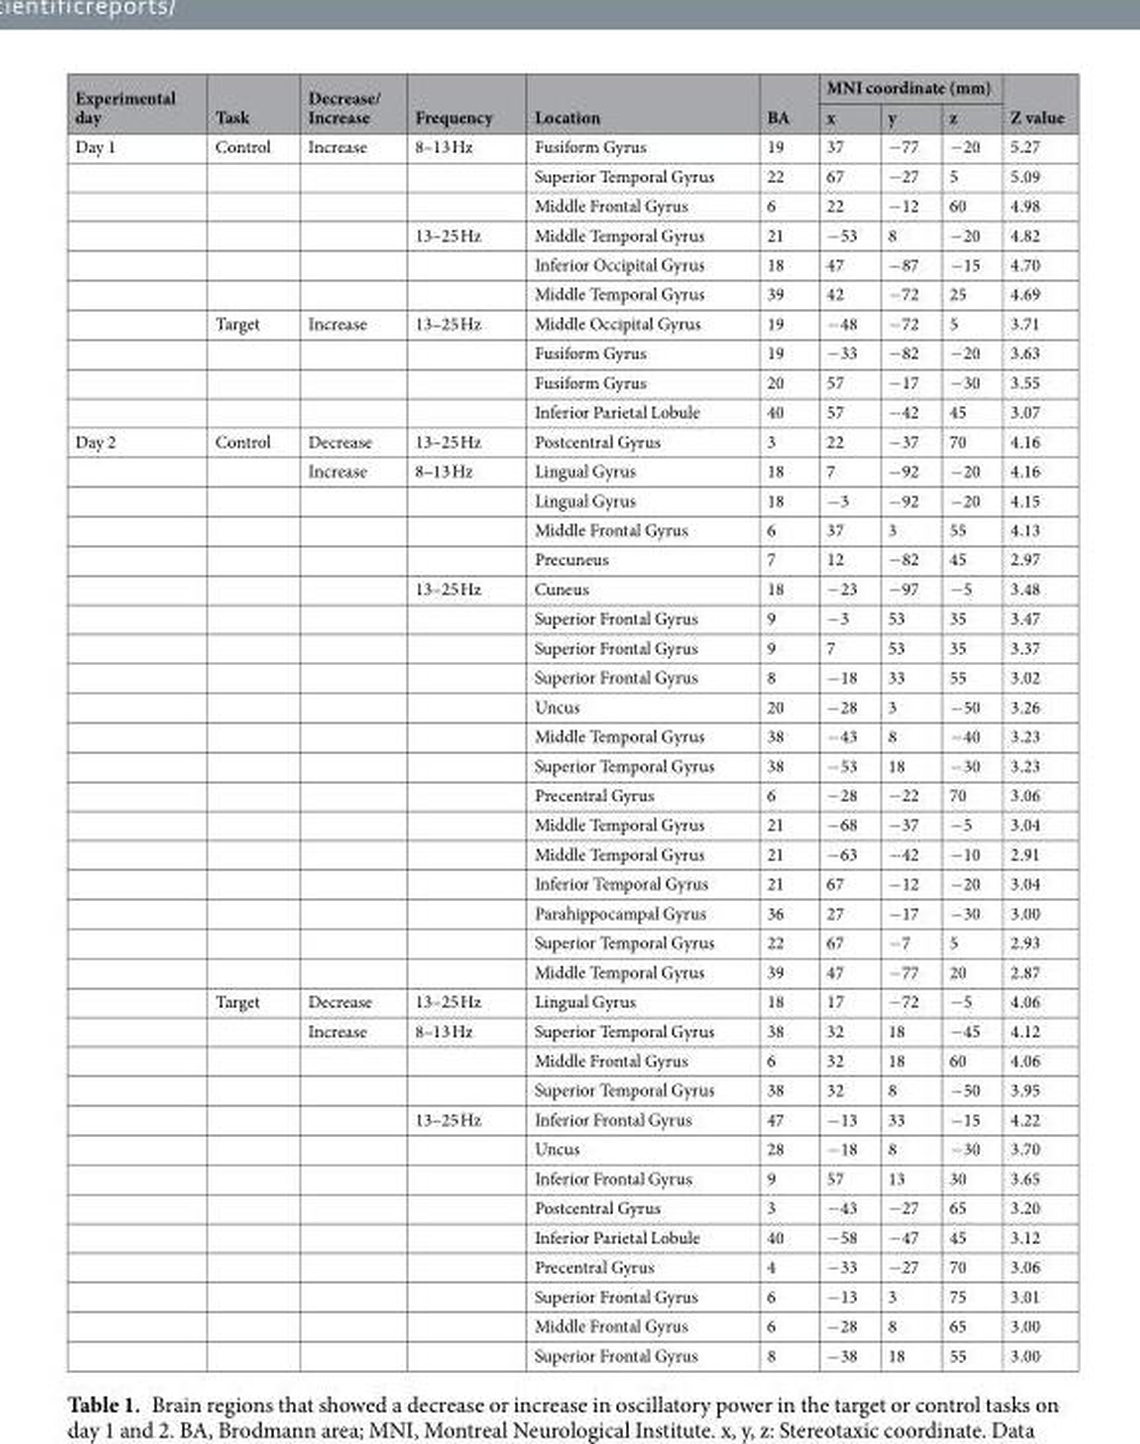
<table><thead><tr><td rowspan="2">Experimental day</td><td rowspan="2">Task</td><td rowspan="2">Decrease/ Increase</td><td rowspan="2">Frequency</td><td rowspan="2">Location</td><td rowspan="2">BA</td><td colspan="3">MNI coordinate (mm)</td><td rowspan="2">Z value</td></tr><tr><td>x</td><td>y</td><td>z</td></tr></thead><tbody><tr><td rowspan="10">Day 1</td><td>Control</td><td>Increase</td><td>8–13 Hz</td><td>Fusiform Gyrus</td><td>19</td><td>37</td><td>−77</td><td>−20</td><td>5.27</td></tr><tr><td></td><td></td><td></td><td>Superior Temporal Gyrus</td><td>22</td><td>67</td><td>−27</td><td>5</td><td>5.09</td></tr><tr><td></td><td></td><td></td><td>Middle Frontal Gyrus</td><td>6</td><td>22</td><td>−12</td><td>60</td><td>4.98</td></tr><tr><td></td><td></td><td>13–25 Hz</td><td>Middle Temporal Gyrus</td><td>21</td><td>−53</td><td>8</td><td>−20</td><td>4.82</td></tr><tr><td></td><td></td><td></td><td>Inferior Occipital Gyrus</td><td>18</td><td>47</td><td>−87</td><td>−15</td><td>4.70</td></tr><tr><td></td><td></td><td></td><td>Middle Temporal Gyrus</td><td>39</td><td>42</td><td>−72</td><td>25</td><td>4.69</td></tr><tr><td>Target</td><td>Increase</td><td>13–25 Hz</td><td>Middle Occipital Gyrus</td><td>19</td><td>−48</td><td>−72</td><td>5</td><td>3.71</td></tr><tr><td></td><td></td><td></td><td>Fusiform Gyrus</td><td>19</td><td>−33</td><td>−82</td><td>−20</td><td>3.63</td></tr><tr><td></td><td></td><td></td><td>Fusiform Gyrus</td><td>20</td><td>57</td><td>−17</td><td>−30</td><td>3.55</td></tr><tr><td></td><td></td><td></td><td>Inferior Parietal Lobule</td><td>40</td><td>57</td><td>−42</td><td>45</td><td>3.07</td></tr><tr><td rowspan="32">Day 2</td><td>Control</td><td>Decrease</td><td>13–25 Hz</td><td>Postcentral Gyrus</td><td>3</td><td>22</td><td>−37</td><td>70</td><td>4.16</td></tr><tr><td></td><td>Increase</td><td>8–13 Hz</td><td>Lingual Gyrus</td><td>18</td><td>7</td><td>−92</td><td>−20</td><td>4.16</td></tr><tr><td></td><td></td><td></td><td>Lingual Gyrus</td><td>18</td><td>−3</td><td>−92</td><td>−20</td><td>4.15</td></tr><tr><td></td><td></td><td></td><td>Middle Frontal Gyrus</td><td>6</td><td>37</td><td>3</td><td>55</td><td>4.13</td></tr><tr><td></td><td></td><td></td><td>Precuneus</td><td>7</td><td>12</td><td>−82</td><td>45</td><td>2.97</td></tr><tr><td></td><td></td><td>13–25 Hz</td><td>Cuneus</td><td>18</td><td>−23</td><td>−97</td><td>−5</td><td>3.48</td></tr><tr><td></td><td></td><td></td><td>Superior Frontal Gyrus</td><td>9</td><td>−3</td><td>53</td><td>35</td><td>3.47</td></tr><tr><td></td><td></td><td></td><td>Superior Frontal Gyrus</td><td>9</td><td>7</td><td>53</td><td>35</td><td>3.37</td></tr><tr><td></td><td></td><td></td><td>Superior Frontal Gyrus</td><td>8</td><td>−18</td><td>33</td><td>55</td><td>3.02</td></tr><tr><td></td><td></td><td></td><td>Uncus</td><td>20</td><td>−28</td><td>3</td><td>−50</td><td>3.26</td></tr><tr><td></td><td></td><td></td><td>Middle Temporal Gyrus</td><td>38</td><td>−43</td><td>8</td><td>−40</td><td>3.23</td></tr><tr><td></td><td></td><td></td><td>Superior Temporal Gyrus</td><td>38</td><td>−53</td><td>18</td><td>−30</td><td>3.23</td></tr><tr><td></td><td></td><td></td><td>Precentral Gyrus</td><td>6</td><td>−28</td><td>−22</td><td>70</td><td>3.06</td></tr><tr><td></td><td></td><td></td><td>Middle Temporal Gyrus</td><td>21</td><td>−68</td><td>−37</td><td>−5</td><td>3.04</td></tr><tr><td></td><td></td><td></td><td>Middle Temporal Gyrus</td><td>21</td><td>−63</td><td>−42</td><td>−10</td><td>2.91</td></tr><tr><td></td><td></td><td></td><td>Inferior Temporal Gyrus</td><td>21</td><td>67</td><td>−12</td><td>−20</td><td>3.04</td></tr><tr><td></td><td></td><td></td><td>Parahippocampal Gyrus</td><td>36</td><td>27</td><td>−17</td><td>−30</td><td>3.00</td></tr><tr><td></td><td></td><td></td><td>Superior Temporal Gyrus</td><td>22</td><td>67</td><td>−7</td><td>5</td><td>2.93</td></tr><tr><td></td><td></td><td></td><td>Middle Temporal Gyrus</td><td>39</td><td>47</td><td>−77</td><td>20</td><td>2.87</td></tr><tr><td>Target</td><td>Decrease</td><td>13–25 Hz</td><td>Lingual Gyrus</td><td>18</td><td>17</td><td>−72</td><td>−5</td><td>4.06</td></tr><tr><td></td><td>Increase</td><td>8–13 Hz</td><td>Superior Temporal Gyrus</td><td>38</td><td>32</td><td>18</td><td>−45</td><td>4.12</td></tr><tr><td></td><td></td><td></td><td>Middle Frontal Gyrus</td><td>6</td><td>32</td><td>18</td><td>60</td><td>4.06</td></tr><tr><td></td><td></td><td></td><td>Superior Temporal Gyrus</td><td>38</td><td>32</td><td>8</td><td>−50</td><td>3.95</td></tr><tr><td></td><td></td><td>13–25 Hz</td><td>Inferior Frontal Gyrus</td><td>47</td><td>−13</td><td>33</td><td>−15</td><td>4.22</td></tr><tr><td></td><td></td><td></td><td>Uncus</td><td>28</td><td>−18</td><td>8</td><td>−30</td><td>3.70</td></tr><tr><td></td><td></td><td></td><td>Inferior Frontal Gyrus</td><td>9</td><td>57</td><td>13</td><td>30</td><td>3.65</td></tr><tr><td></td><td></td><td></td><td>Postcentral Gyrus</td><td>3</td><td>−43</td><td>−27</td><td>65</td><td>3.20</td></tr><tr><td></td><td></td><td></td><td>Inferior Parietal Lobule</td><td>40</td><td>−58</td><td>−47</td><td>45</td><td>3.12</td></tr><tr><td></td><td></td><td></td><td>Precentral Gyrus</td><td>4</td><td>−33</td><td>−27</td><td>70</td><td>3.06</td></tr><tr><td></td><td></td><td></td><td>Superior Frontal Gyrus</td><td>6</td><td>−13</td><td>3</td><td>75</td><td>3.01</td></tr><tr><td></td><td></td><td></td><td>Middle Frontal Gyrus</td><td>6</td><td>−28</td><td>8</td><td>65</td><td>3.00</td></tr><tr><td></td><td></td><td></td><td>Superior Frontal Gyrus</td><td>8</td><td>−38</td><td>18</td><td>55</td><td>3.00</td></tr></tbody></table>